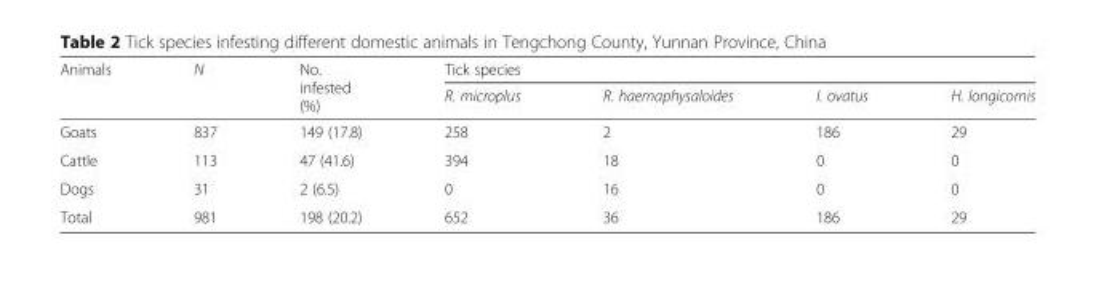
<table><thead><tr><td rowspan="2">Animals</td><td rowspan="2">N</td><td rowspan="2">No. infested (%)</td><td colspan="4">Tick species</td></tr><tr><td>R. microplus</td><td>R. haemaphysaloides</td><td>I. ovatus</td><td>H. longicornis</td></tr></thead><tbody><tr><td>Goats</td><td>837</td><td>149 (17.8)</td><td>258</td><td>2</td><td>186</td><td>29</td></tr><tr><td>Cattle</td><td>113</td><td>47 (41.6)</td><td>394</td><td>18</td><td>0</td><td>0</td></tr><tr><td>Dogs</td><td>31</td><td>2 (6.5)</td><td>0</td><td>16</td><td>0</td><td>0</td></tr><tr><td>Total</td><td>981</td><td>198 (20.2)</td><td>652</td><td>36</td><td>186</td><td>29</td></tr></tbody></table>